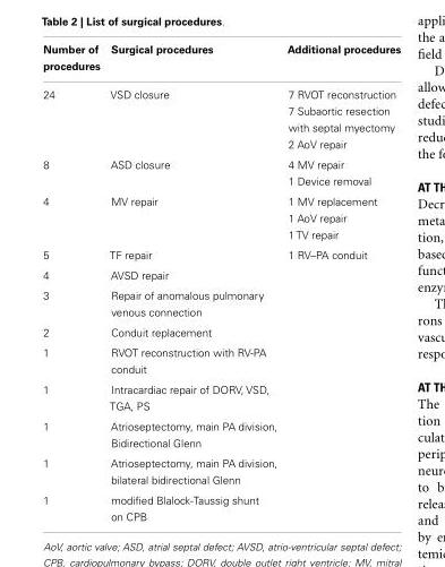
<table><thead><tr><td>Number of procedures</td><td>Surgical procedures</td><td>Additional procedures</td></tr></thead><tbody><tr><td rowspan="3">24</td><td>VSD closure</td><td>7 RVOT reconstruction</td></tr><tr><td></td><td>7 Subaortic resection with septal myectomy</td></tr><tr><td></td><td>2 AoV repair</td></tr><tr><td rowspan="2">8</td><td>ASD closure</td><td>4 MV repair</td></tr><tr><td></td><td>1 Device removal</td></tr><tr><td rowspan="3">4</td><td>MV repair</td><td>1 MV replacement</td></tr><tr><td></td><td>1 AoV repair</td></tr><tr><td></td><td>1 TV repair</td></tr><tr><td>5</td><td>TF repair</td><td>1 RV–PA conduit</td></tr><tr><td>4</td><td>AVSD repair</td><td></td></tr><tr><td>3</td><td>Repair of anomalous pulmonary venous connection</td><td></td></tr><tr><td>2</td><td>Conduit replacement</td><td></td></tr><tr><td>1</td><td>RVOT reconstruction with RV-PA conduit</td><td></td></tr><tr><td>1</td><td>Intracardiac repair of DORV, VSD, TGA, PS</td><td></td></tr><tr><td>1</td><td>Atrioseptectomy, main PA division, Bidirectional Glenn</td><td></td></tr><tr><td>1</td><td>Atrioseptectomy, main PA division, bilateral bidirectional Glenn</td><td></td></tr><tr><td>1</td><td>modified Blalock-Taussig shunt on CPB</td><td></td></tr></tbody></table>